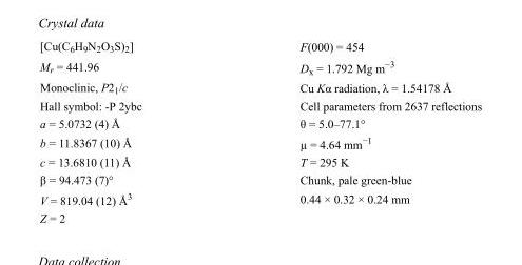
<table><tbody><tr><td>[Cu(C<sub>6</sub>H<sub>9</sub>N<sub>2</sub>O<sub>3</sub>S)<sub>2</sub>]</td><td>F(000) = 454</td></tr><tr><td>M<sub>r</sub> = 441.96</td><td>D<sub>x</sub> = 1.792 Mg m<sup>−3</sup></td></tr><tr><td>Monoclinic, P2<sub>1</sub>/c</td><td>Cu Kα radiation, λ = 1.54178 Å</td></tr><tr><td>Hall symbol: -P 2ybc</td><td>Cell parameters from 2637 reflections</td></tr><tr><td>a = 5.0732 (4) Å</td><td>θ = 5.0–77.1°</td></tr><tr><td>b = 11.8367 (10) Å</td><td>µ = 4.64 mm<sup>−1</sup></td></tr><tr><td>c = 13.6810 (11) Å</td><td>T = 295 K</td></tr><tr><td>β = 94.473 (7)°</td><td>Chunk, pale green-blue</td></tr><tr><td>V = 819.04 (12) Å<sup>3</sup></td><td>0.44 × 0.32 × 0.24 mm</td></tr><tr><td>Z = 2</td><td></td></tr></tbody></table>